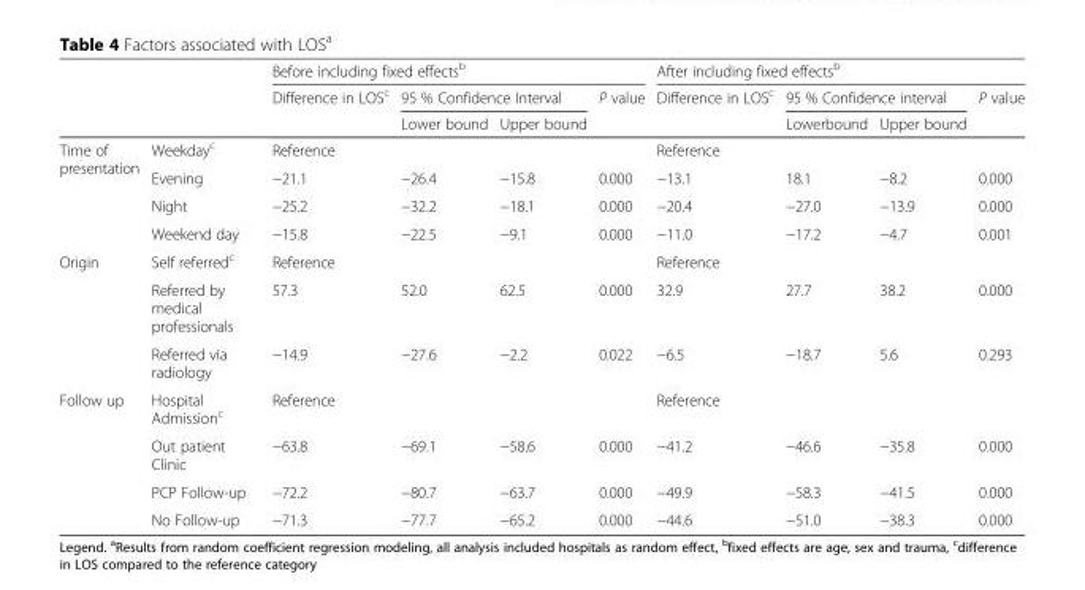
<table><thead><tr><td rowspan="3"></td><td rowspan="3"></td><td colspan="4">Before including fixed effects<sup>b</sup></td><td colspan="4">After including fixed effects<sup>b</sup></td></tr><tr><td rowspan="2">Difference in LOS<sup>c</sup></td><td colspan="2">95 % Confidence Interval</td><td rowspan="2">P value</td><td rowspan="2">Difference in LOS<sup>c</sup></td><td colspan="2">95 % Confidence interval</td><td rowspan="2">P value</td></tr><tr><td>Lower bound</td><td>Upper bound</td><td>Lowerbound</td><td>Upper bound</td></tr></thead><tbody><tr><td rowspan="4">Time of presentation</td><td>Weekday<sup>c</sup></td><td>Reference</td><td></td><td></td><td></td><td>Reference</td><td></td><td></td><td></td></tr><tr><td>Evening</td><td>−21.1</td><td>−26.4</td><td>−15.8</td><td>0.000</td><td>−13.1</td><td>18.1</td><td>−8.2</td><td>0.000</td></tr><tr><td>Night</td><td>−25.2</td><td>−32.2</td><td>−18.1</td><td>0.000</td><td>−20.4</td><td>−27.0</td><td>−13.9</td><td>0.000</td></tr><tr><td>Weekend day</td><td>−15.8</td><td>−22.5</td><td>−9.1</td><td>0.000</td><td>−11.0</td><td>−17.2</td><td>−4.7</td><td>0.001</td></tr><tr><td rowspan="3">Origin</td><td>Self referred<sup>c</sup></td><td>Reference</td><td></td><td></td><td></td><td>Reference</td><td></td><td></td><td></td></tr><tr><td>Referred by medical professionals</td><td>57.3</td><td>52.0</td><td>62.5</td><td>0.000</td><td>32.9</td><td>27.7</td><td>38.2</td><td>0.000</td></tr><tr><td>Referred via radiology</td><td>−14.9</td><td>−27.6</td><td>−2.2</td><td>0.022</td><td>−6.5</td><td>−18.7</td><td>5.6</td><td>0.293</td></tr><tr><td rowspan="4">Follow up</td><td>Hospital Admission<sup>c</sup></td><td>Reference</td><td></td><td></td><td></td><td>Reference</td><td></td><td></td><td></td></tr><tr><td>Out patient Clinic</td><td>−63.8</td><td>−69.1</td><td>−58.6</td><td>0.000</td><td>−41.2</td><td>−46.6</td><td>−35.8</td><td>0.000</td></tr><tr><td>PCP Follow-up</td><td>−72.2</td><td>−80.7</td><td>−63.7</td><td>0.000</td><td>−49.9</td><td>−58.3</td><td>−41.5</td><td>0.000</td></tr><tr><td>No Follow-up</td><td>−71.3</td><td>−77.7</td><td>−65.2</td><td>0.000</td><td>−44.6</td><td>−51.0</td><td>−38.3</td><td>0.000</td></tr></tbody></table>